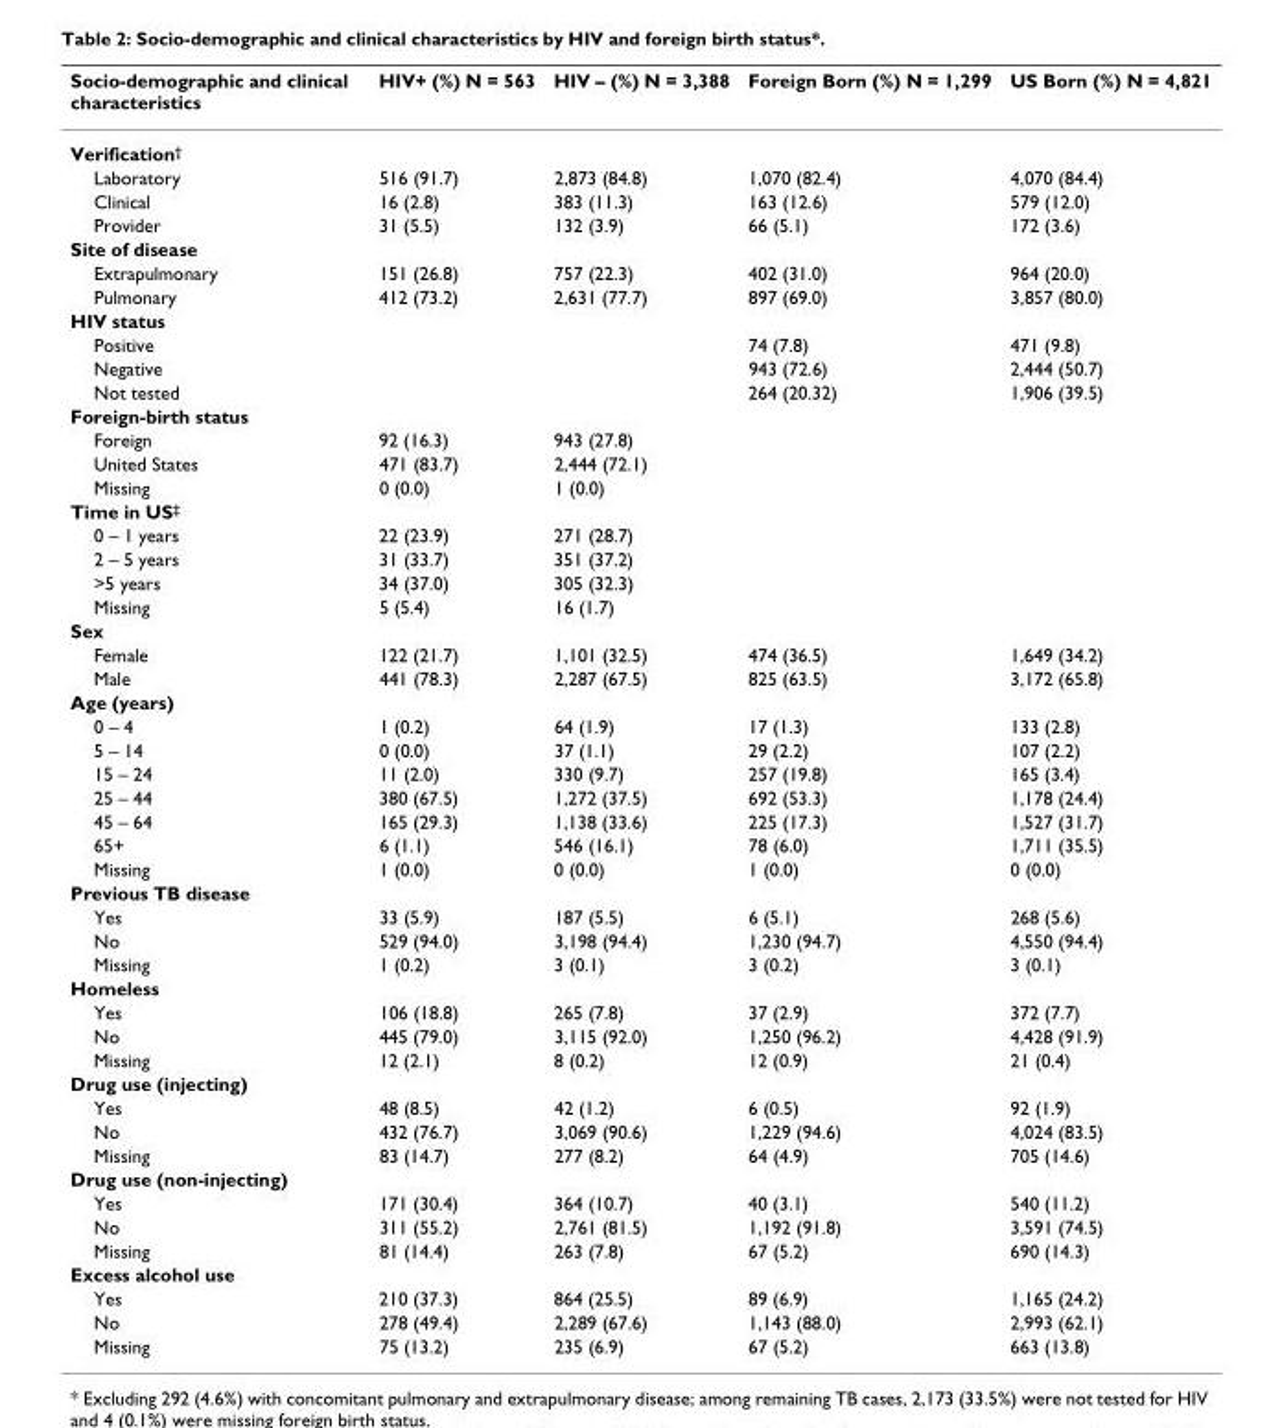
<table><thead><tr><td>Socio-demographic and clinical characteristics</td><td>HIV+ (%) N = 563</td><td>HIV – (%) N = 3,388</td><td>Foreign Born (%) N = 1,299</td><td>US Born (%) N = 4,821</td></tr></thead><tbody><tr><td colspan="5">Verification<sup>†</sup></td></tr><tr><td>Laboratory</td><td>516 (91.7)</td><td>2,873 (84.8)</td><td>1,070 (82.4)</td><td>4,070 (84.4)</td></tr><tr><td>Clinical</td><td>16 (2.8)</td><td>383 (11.3)</td><td>163 (12.6)</td><td>579 (12.0)</td></tr><tr><td>Provider</td><td>31 (5.5)</td><td>132 (3.9)</td><td>66 (5.1)</td><td>172 (3.6)</td></tr><tr><td colspan="5">Site of disease</td></tr><tr><td>Extrapulmonary</td><td>151 (26.8)</td><td>757 (22.3)</td><td>402 (31.0)</td><td>964 (20.0)</td></tr><tr><td>Pulmonary</td><td>412 (73.2)</td><td>2,631 (77.7)</td><td>897 (69.0)</td><td>3,857 (80.0)</td></tr><tr><td colspan="5">HIV status</td></tr><tr><td>Positive</td><td></td><td></td><td>74 (7.8)</td><td>471 (9.8)</td></tr><tr><td>Negative</td><td></td><td></td><td>943 (72.6)</td><td>2,444 (50.7)</td></tr><tr><td>Not tested</td><td></td><td></td><td>264 (20.32)</td><td>1,906 (39.5)</td></tr><tr><td colspan="5">Foreign-birth status</td></tr><tr><td>Foreign</td><td>92 (16.3)</td><td>943 (27.8)</td><td></td><td></td></tr><tr><td>United States</td><td>471 (83.7)</td><td>2,444 (72.1)</td><td></td><td></td></tr><tr><td>Missing</td><td>0 (0.0)</td><td>1 (0.0)</td><td></td><td></td></tr><tr><td colspan="5">Time in US<sup>‡</sup></td></tr><tr><td>0 – 1 years</td><td>22 (23.9)</td><td>271 (28.7)</td><td></td><td></td></tr><tr><td>2 – 5 years</td><td>31 (33.7)</td><td>351 (37.2)</td><td></td><td></td></tr><tr><td>&gt;5 years</td><td>34 (37.0)</td><td>305 (32.3)</td><td></td><td></td></tr><tr><td>Missing</td><td>5 (5.4)</td><td>16 (1.7)</td><td></td><td></td></tr><tr><td colspan="5">Sex</td></tr><tr><td>Female</td><td>122 (21.7)</td><td>1,101 (32.5)</td><td>474 (36.5)</td><td>1,649 (34.2)</td></tr><tr><td>Male</td><td>441 (78.3)</td><td>2,287 (67.5)</td><td>825 (63.5)</td><td>3,172 (65.8)</td></tr><tr><td colspan="5">Age (years)</td></tr><tr><td>0 – 4</td><td>1 (0.2)</td><td>64 (1.9)</td><td>17 (1.3)</td><td>133 (2.8)</td></tr><tr><td>5 – 14</td><td>0 (0.0)</td><td>37 (1.1)</td><td>29 (2.2)</td><td>107 (2.2)</td></tr><tr><td>15 – 24</td><td>11 (2.0)</td><td>330 (9.7)</td><td>257 (19.8)</td><td>165 (3.4)</td></tr><tr><td>25 – 44</td><td>380 (67.5)</td><td>1,272 (37.5)</td><td>692 (53.3)</td><td>1,178 (24.4)</td></tr><tr><td>45 – 64</td><td>165 (29.3)</td><td>1,138 (33.6)</td><td>225 (17.3)</td><td>1,527 (31.7)</td></tr><tr><td>65+</td><td>6 (1.1)</td><td>546 (16.1)</td><td>78 (6.0)</td><td>1,711 (35.5)</td></tr><tr><td>Missing</td><td>1 (0.0)</td><td>0 (0.0)</td><td>1 (0.0)</td><td>0 (0.0)</td></tr><tr><td colspan="5">Previous TB disease</td></tr><tr><td>Yes</td><td>33 (5.9)</td><td>187 (5.5)</td><td>6 (5.1)</td><td>268 (5.6)</td></tr><tr><td>No</td><td>529 (94.0)</td><td>3,198 (94.4)</td><td>1,230 (94.7)</td><td>4,550 (94.4)</td></tr><tr><td>Missing</td><td>1 (0.2)</td><td>3 (0.1)</td><td>3 (0.2)</td><td>3 (0.1)</td></tr><tr><td colspan="5">Homeless</td></tr><tr><td>Yes</td><td>106 (18.8)</td><td>265 (7.8)</td><td>37 (2.9)</td><td>372 (7.7)</td></tr><tr><td>No</td><td>445 (79.0)</td><td>3,115 (92.0)</td><td>1,250 (96.2)</td><td>4,428 (91.9)</td></tr><tr><td>Missing</td><td>12 (2.1)</td><td>8 (0.2)</td><td>12 (0.9)</td><td>21 (0.4)</td></tr><tr><td colspan="5">Drug use (injecting)</td></tr><tr><td>Yes</td><td>48 (8.5)</td><td>42 (1.2)</td><td>6 (0.5)</td><td>92 (1.9)</td></tr><tr><td>No</td><td>432 (76.7)</td><td>3,069 (90.6)</td><td>1,229 (94.6)</td><td>4,024 (83.5)</td></tr><tr><td>Missing</td><td>83 (14.7)</td><td>277 (8.2)</td><td>64 (4.9)</td><td>705 (14.6)</td></tr><tr><td colspan="5">Drug use (non-injecting)</td></tr><tr><td>Yes</td><td>171 (30.4)</td><td>364 (10.7)</td><td>40 (3.1)</td><td>540 (11.2)</td></tr><tr><td>No</td><td>311 (55.2)</td><td>2,761 (81.5)</td><td>1,192 (91.8)</td><td>3,591 (74.5)</td></tr><tr><td>Missing</td><td>81 (14.4)</td><td>263 (7.8)</td><td>67 (5.2)</td><td>690 (14.3)</td></tr><tr><td colspan="5">Excess alcohol use</td></tr><tr><td>Yes</td><td>210 (37.3)</td><td>864 (25.5)</td><td>89 (6.9)</td><td>1,165 (24.2)</td></tr><tr><td>No</td><td>278 (49.4)</td><td>2,289 (67.6)</td><td>1,143 (88.0)</td><td>2,993 (62.1)</td></tr><tr><td>Missing</td><td>75 (13.2)</td><td>235 (6.9)</td><td>67 (5.2)</td><td>663 (13.8)</td></tr></tbody></table>